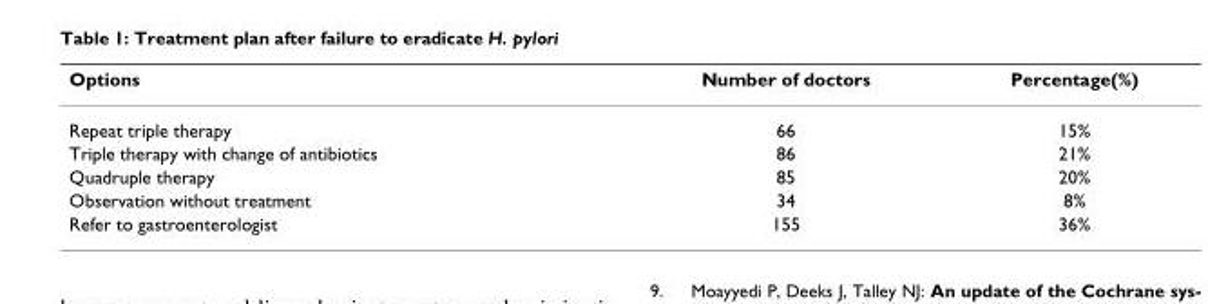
<table><thead><tr><td>Options</td><td>Number of doctors</td><td>Percentage(%)</td></tr></thead><tbody><tr><td>Repeat triple therapy</td><td>66</td><td>15%</td></tr><tr><td>Triple therapy with change of antibiotics</td><td>86</td><td>21%</td></tr><tr><td>Quadruple therapy</td><td>85</td><td>20%</td></tr><tr><td>Observation without treatment</td><td>34</td><td>8%</td></tr><tr><td>Refer to gastroenterologist</td><td>155</td><td>36%</td></tr></tbody></table>